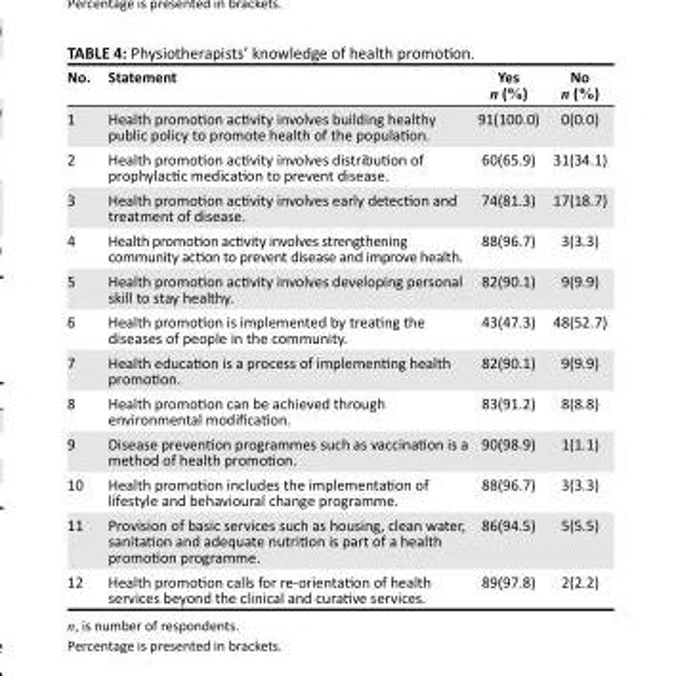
<table><thead><tr><td>No.</td><td>Statement</td><td>Yes n (%)</td><td>No n (%)</td></tr></thead><tbody><tr><td>1</td><td>Health promotion activity involves building healthy public policy to promote health of the population.</td><td>91(100.0)</td><td>0(0.0)</td></tr><tr><td>2</td><td>Health promotion activity involves distribution of prophylactic medication to prevent disease.</td><td>60(65.9)</td><td>31(34.1)</td></tr><tr><td>3</td><td>Health promotion activity involves early detection and treatment of disease.</td><td>74(81.3)</td><td>17(18.7)</td></tr><tr><td>4</td><td>Health promotion activity involves strengthening community action to prevent disease and improve health.</td><td>88(96.7)</td><td>3(3.3)</td></tr><tr><td>5</td><td>Health promotion activity involves developing personal skill to stay healthy.</td><td>82(90.1)</td><td>9(9.9)</td></tr><tr><td>6</td><td>Health promotion is implemented by treating the diseases of people in the community.</td><td>43(47.3)</td><td>48(52.7)</td></tr><tr><td>7</td><td>Health education is a process of implementing health promotion.</td><td>82(90.1)</td><td>9(9.9)</td></tr><tr><td>8</td><td>Health promotion can be achieved through environmental modification.</td><td>83(91.2)</td><td>8(8.8)</td></tr><tr><td>9</td><td>Disease prevention programmes such as vaccination is a method of health promotion.</td><td>90(98.9)</td><td>1(1.1)</td></tr><tr><td>10</td><td>Health promotion includes the implementation of lifestyle and behavioural change programme.</td><td>88(96.7)</td><td>3(3.3)</td></tr><tr><td>11</td><td>Provision of basic services such as housing, clean water, sanitation and adequate nutrition is part of a health promotion programme.</td><td>86(94.5)</td><td>5(5.5)</td></tr><tr><td>12</td><td>Health promotion calls for re-orientation of health services beyond the clinical and curative services.</td><td>89(97.8)</td><td>2(2.2)</td></tr></tbody></table>